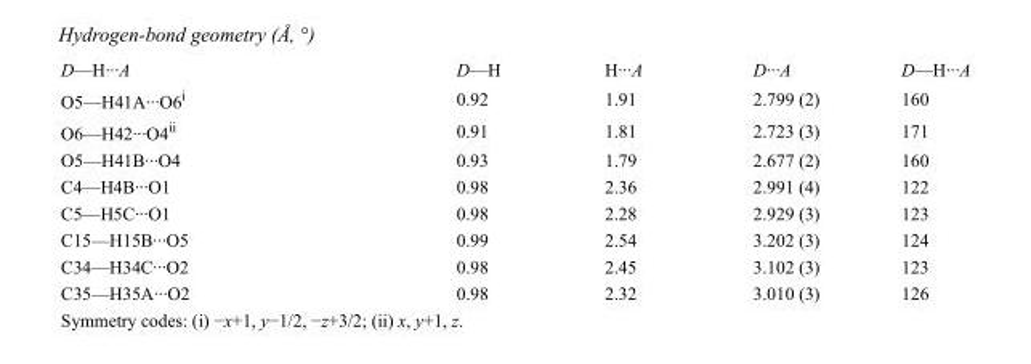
<table><tbody><tr><td>D—H···A</td><td>D—H</td><td>H···A</td><td>D···A</td><td>D—H···A</td></tr><tr><td>O5—H41A···O6<sup>i</sup></td><td>0.92</td><td>1.91</td><td>2.799 (2)</td><td>160</td></tr><tr><td>O6—H42···O4<sup>ii</sup></td><td>0.91</td><td>1.81</td><td>2.723 (3)</td><td>171</td></tr><tr><td>O5—H41B···O4</td><td>0.93</td><td>1.79</td><td>2.677 (2)</td><td>160</td></tr><tr><td>C4—H4B···O1</td><td>0.98</td><td>2.36</td><td>2.991 (4)</td><td>122</td></tr><tr><td>C5—H5C···O1</td><td>0.98</td><td>2.28</td><td>2.929 (3)</td><td>123</td></tr><tr><td>C15—H15B···O5</td><td>0.99</td><td>2.54</td><td>3.202 (3)</td><td>124</td></tr><tr><td>C34—H34C···O2</td><td>0.98</td><td>2.45</td><td>3.102 (3)</td><td>123</td></tr><tr><td>C35—H35A···O2</td><td>0.98</td><td>2.32</td><td>3.010 (3)</td><td>126</td></tr></tbody></table>